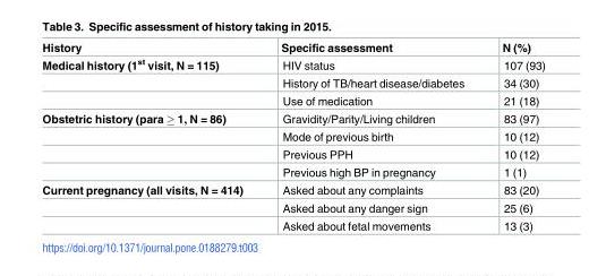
<table><thead><tr><td>History</td><td>Specific assessment</td><td>N (%)</td></tr></thead><tbody><tr><td rowspan="3">Medical history (1<sup>st</sup> visit, N = 115)</td><td>HIV status</td><td>107 (93)</td></tr><tr><td>History of TB/heart disease/diabetes</td><td>34 (30)</td></tr><tr><td>Use of medication</td><td>21 (18)</td></tr><tr><td rowspan="4">Obstetric history (para ≥ 1, N = 86)</td><td>Gravidity/Parity/Living children</td><td>83 (97)</td></tr><tr><td>Mode of previous birth</td><td>10 (12)</td></tr><tr><td>Previous PPH</td><td>10 (12)</td></tr><tr><td>Previous high BP in pregnancy</td><td>1 (1)</td></tr><tr><td rowspan="3">Current pregnancy (all visits, N = 414)</td><td>Asked about any complaints</td><td>83 (20)</td></tr><tr><td>Asked about any danger sign</td><td>25 (6)</td></tr><tr><td>Asked about fetal movements</td><td>13 (3)</td></tr></tbody></table>